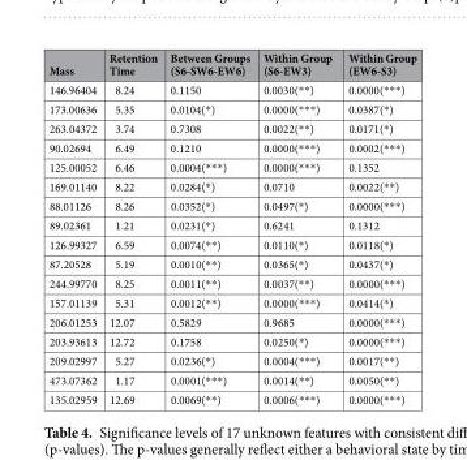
<table><thead><tr><td>Mass</td><td>Retention Time</td><td>Between Groups (S6-SW6-EW6)</td><td>Within Group (S6-EW3)</td><td>Within Group (EW6-S3)</td></tr></thead><tbody><tr><td>146.96404</td><td>8.24</td><td>0.1150</td><td>0.0030(**)</td><td>0.0000(***)</td></tr><tr><td>173.00636</td><td>5.35</td><td>0.0104(*)</td><td>0.0000(***)</td><td>0.0387(*)</td></tr><tr><td>263.04372</td><td>3.74</td><td>0.7308</td><td>0.0022(**)</td><td>0.0171(*)</td></tr><tr><td>90.02694</td><td>6.49</td><td>0.1210</td><td>0.0000(***)</td><td>0.0002(***)</td></tr><tr><td>125.00052</td><td>6.46</td><td>0.0004(***)</td><td>0.0000(***)</td><td>0.1352</td></tr><tr><td>169.01140</td><td>8.22</td><td>0.0284(*)</td><td>0.0710</td><td>0.0022(**)</td></tr><tr><td>88.01126</td><td>8.26</td><td>0.0352(*)</td><td>0.0497(*)</td><td>0.0000(***)</td></tr><tr><td>89.02361</td><td>1.21</td><td>0.0231(*)</td><td>0.6241</td><td>0.1312</td></tr><tr><td>126.99327</td><td>6.59</td><td>0.0074(**)</td><td>0.0110(*)</td><td>0.0118(*)</td></tr><tr><td>87.20528</td><td>5.19</td><td>0.0010(**)</td><td>0.0365(*)</td><td>0.0437(*)</td></tr><tr><td>244.99770</td><td>8.25</td><td>0.0011(**)</td><td>0.0037(**)</td><td>0.0000(***)</td></tr><tr><td>157.01139</td><td>5.31</td><td>0.0012(**)</td><td>0.0000(***)</td><td>0.0414(*)</td></tr><tr><td>206.01253</td><td>12.07</td><td>0.5829</td><td>0.9685</td><td>0.0000(***)</td></tr><tr><td>203.93613</td><td>12.72</td><td>0.1758</td><td>0.0250(*)</td><td>0.0000(***)</td></tr><tr><td>209.02997</td><td>5.27</td><td>0.0236(*)</td><td>0.0004(***)</td><td>0.0017(**)</td></tr><tr><td>473.07362</td><td>1.17</td><td>0.0001(***)</td><td>0.0014(**)</td><td>0.0050(**)</td></tr><tr><td>135.02959</td><td>12.69</td><td>0.0069(**)</td><td>0.0006(***)</td><td>0.0000(***)</td></tr></tbody></table>